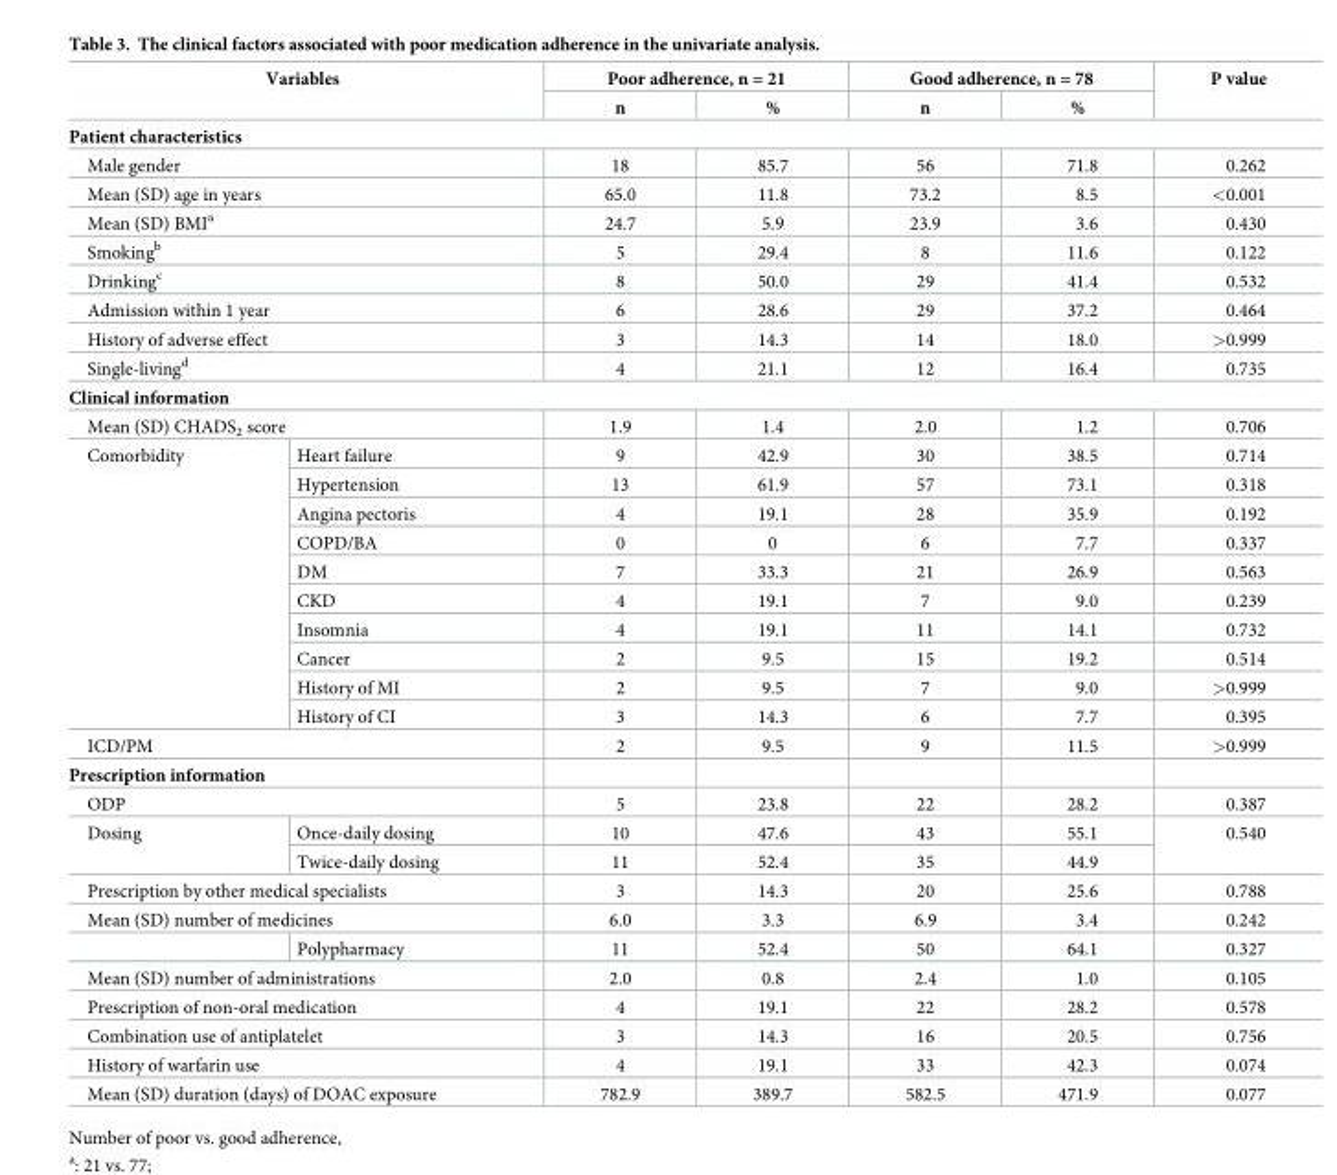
<table><thead><tr><td rowspan="2" colspan="2">Variables</td><td colspan="2">Poor adherence, n = 21</td><td colspan="2">Good adherence, n = 78</td><td rowspan="2">P value</td></tr><tr><td>n</td><td>%</td><td>n</td><td>%</td></tr></thead><tbody><tr><td colspan="7">Patient characteristics</td></tr><tr><td colspan="2">Male gender</td><td>18</td><td>85.7</td><td>56</td><td>71.8</td><td>0.262</td></tr><tr><td colspan="2">Mean (SD) age in years</td><td>65.0</td><td>11.8</td><td>73.2</td><td>8.5</td><td>&lt;0.001</td></tr><tr><td colspan="2">Mean (SD) BMI<sup>a</sup></td><td>24.7</td><td>5.9</td><td>23.9</td><td>3.6</td><td>0.430</td></tr><tr><td colspan="2">Smoking<sup>b</sup></td><td>5</td><td>29.4</td><td>8</td><td>11.6</td><td>0.122</td></tr><tr><td colspan="2">Drinking<sup>c</sup></td><td>8</td><td>50.0</td><td>29</td><td>41.4</td><td>0.532</td></tr><tr><td colspan="2">Admission within 1 year</td><td>6</td><td>28.6</td><td>29</td><td>37.2</td><td>0.464</td></tr><tr><td colspan="2">History of adverse effect</td><td>3</td><td>14.3</td><td>14</td><td>18.0</td><td>&gt;0.999</td></tr><tr><td colspan="2">Single-living<sup>d</sup></td><td>4</td><td>21.1</td><td>12</td><td>16.4</td><td>0.735</td></tr><tr><td colspan="7">Clinical information</td></tr><tr><td colspan="2">Mean (SD) CHADS<sub>2</sub> score</td><td>1.9</td><td>1.4</td><td>2.0</td><td>1.2</td><td>0.706</td></tr><tr><td rowspan="10">Comorbidity</td><td>Heart failure</td><td>9</td><td>42.9</td><td>30</td><td>38.5</td><td>0.714</td></tr><tr><td>Hypertension</td><td>13</td><td>61.9</td><td>57</td><td>73.1</td><td>0.318</td></tr><tr><td>Angina pectoris</td><td>4</td><td>19.1</td><td>28</td><td>35.9</td><td>0.192</td></tr><tr><td>COPD/BA</td><td>0</td><td>0</td><td>6</td><td>7.7</td><td>0.337</td></tr><tr><td>DM</td><td>7</td><td>33.3</td><td>21</td><td>26.9</td><td>0.563</td></tr><tr><td>CKD</td><td>4</td><td>19.1</td><td>7</td><td>9.0</td><td>0.239</td></tr><tr><td>Insomnia</td><td>4</td><td>19.1</td><td>11</td><td>14.1</td><td>0.732</td></tr><tr><td>Cancer</td><td>2</td><td>9.5</td><td>15</td><td>19.2</td><td>0.514</td></tr><tr><td>History of MI</td><td>2</td><td>9.5</td><td>7</td><td>9.0</td><td>&gt;0.999</td></tr><tr><td>History of CI</td><td>3</td><td>14.3</td><td>6</td><td>7.7</td><td>0.395</td></tr><tr><td colspan="2">ICD/PM</td><td>2</td><td>9.5</td><td>9</td><td>11.5</td><td>&gt;0.999</td></tr><tr><td colspan="7">Prescription information</td></tr><tr><td colspan="2">ODP</td><td>5</td><td>23.8</td><td>22</td><td>28.2</td><td>0.387</td></tr><tr><td rowspan="2">Dosing</td><td>Once-daily dosing</td><td>10</td><td>47.6</td><td>43</td><td>55.1</td><td rowspan="2">0.540</td></tr><tr><td>Twice-daily dosing</td><td>11</td><td>52.4</td><td>35</td><td>44.9</td></tr><tr><td colspan="2">Prescription by other medical specialists</td><td>3</td><td>14.3</td><td>20</td><td>25.6</td><td>0.788</td></tr><tr><td colspan="2">Mean (SD) number of medicines</td><td>6.0</td><td>3.3</td><td>6.9</td><td>3.4</td><td>0.242</td></tr><tr><td></td><td>Polypharmacy</td><td>11</td><td>52.4</td><td>50</td><td>64.1</td><td>0.327</td></tr><tr><td colspan="2">Mean (SD) number of administrations</td><td>2.0</td><td>0.8</td><td>2.4</td><td>1.0</td><td>0.105</td></tr><tr><td colspan="2">Prescription of non-oral medication</td><td>4</td><td>19.1</td><td>22</td><td>28.2</td><td>0.578</td></tr><tr><td colspan="2">Combination use of antiplatelet</td><td>3</td><td>14.3</td><td>16</td><td>20.5</td><td>0.756</td></tr><tr><td colspan="2">History of warfarin use</td><td>4</td><td>19.1</td><td>33</td><td>42.3</td><td>0.074</td></tr><tr><td colspan="2">Mean (SD) duration (days) of DOAC exposure</td><td>782.9</td><td>389.7</td><td>582.5</td><td>471.9</td><td>0.077</td></tr></tbody></table>